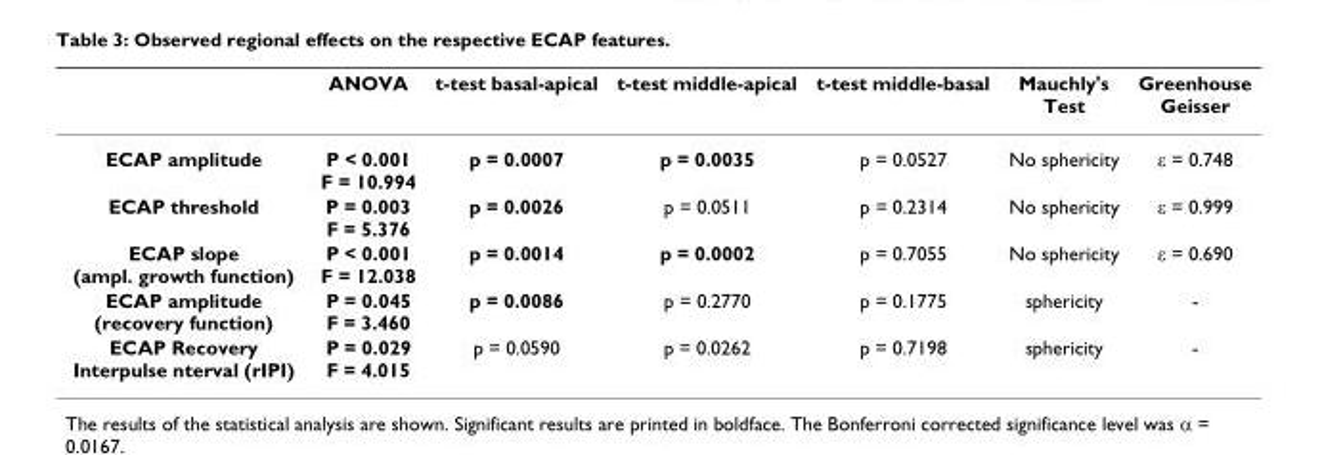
<table><thead><tr><td></td><td>ANOVA</td><td>t-test basal-apical</td><td>t-test middle-apical</td><td>t-test middle-basal</td><td>Mauchly&#x27;s Test</td><td>Greenhouse Geisser</td></tr></thead><tbody><tr><td>ECAP amplitude</td><td>P &lt; 0.001 F = 10.994</td><td>p = 0.0007</td><td>p = 0.0035</td><td>p = 0.0527</td><td>No sphericity</td><td>ε = 0.748</td></tr><tr><td>ECAP threshold</td><td>P = 0.003 F = 5.376</td><td>p = 0.0026</td><td>p = 0.0511</td><td>p = 0.2314</td><td>No sphericity</td><td>ε = 0.999</td></tr><tr><td>ECAP slope (ampl. growth function)</td><td>P &lt; 0.001 F = 12.038</td><td>p = 0.0014</td><td>p = 0.0002</td><td>p = 0.7055</td><td>No sphericity</td><td>ε = 0.690</td></tr><tr><td>ECAP amplitude (recovery function)</td><td>P = 0.045 F = 3.460</td><td>p = 0.0086</td><td>p = 0.2770</td><td>p = 0.1775</td><td>sphericity</td><td>-</td></tr><tr><td>ECAP Recovery Interpulse nterval (rIPI)</td><td>P = 0.029 F = 4.015</td><td>p = 0.0590</td><td>p = 0.0262</td><td>p = 0.7198</td><td>sphericity</td><td>-</td></tr></tbody></table>